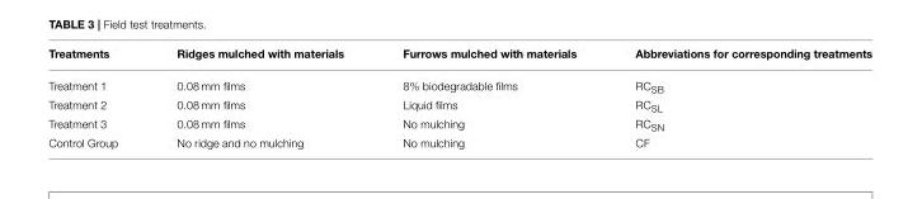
<table><thead><tr><td>Treatments</td><td>Ridges mulched with materials</td><td>Furrows mulched with materials</td><td>Abbreviations for corresponding treatments</td></tr></thead><tbody><tr><td>Treatment 1</td><td>0.08 mm films</td><td>8% biodegradable films</td><td>RC<sub>SB</sub></td></tr><tr><td>Treatment 2</td><td>0.08 mm films</td><td>Liquid films</td><td>RC<sub>SL</sub></td></tr><tr><td>Treatment 3</td><td>0.08 mm films</td><td>No mulching</td><td>RC<sub>SN</sub></td></tr><tr><td>Control Group</td><td>No ridge and no mulching</td><td>No mulching</td><td>CF</td></tr></tbody></table>